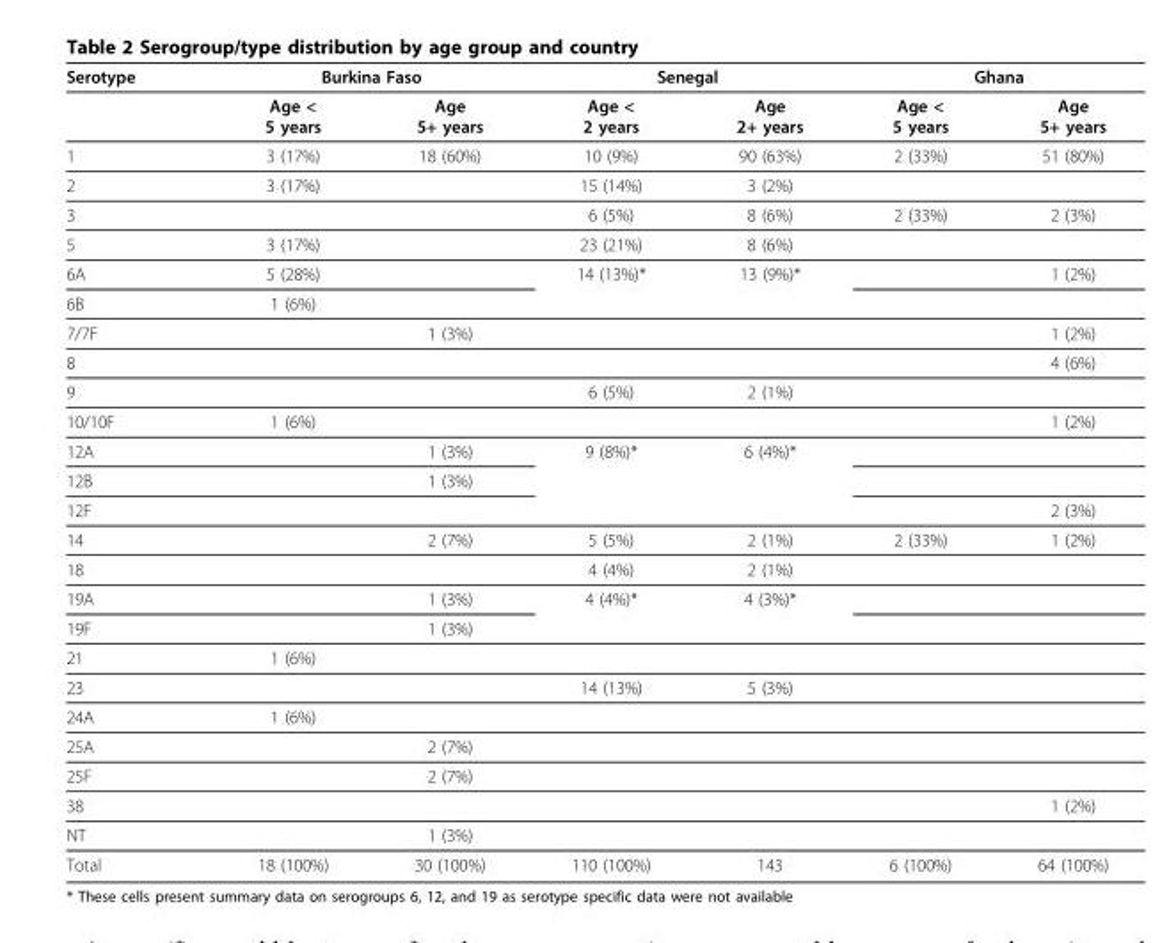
<table><thead><tr><td rowspan="2">Serotype</td><td colspan="2">Burkina Faso</td><td colspan="2">Senegal</td><td colspan="2">Ghana</td></tr><tr><td>Age &lt; 5 years</td><td>Age 5+ years</td><td>Age &lt; 2 years</td><td>Age 2+ years</td><td>Age &lt; 5 years</td><td>Age 5+ years</td></tr></thead><tbody><tr><td>1</td><td>3 (17%)</td><td>18 (60%)</td><td>10 (9%)</td><td>90 (63%)</td><td>2 (33%)</td><td>51 (80%)</td></tr><tr><td>2</td><td>3 (17%)</td><td></td><td>15 (14%)</td><td>3 (2%)</td><td></td><td></td></tr><tr><td>3</td><td></td><td></td><td>6 (5%)</td><td>8 (6%)</td><td>2 (33%)</td><td>2 (3%)</td></tr><tr><td>5</td><td>3 (17%)</td><td></td><td>23 (21%)</td><td>8 (6%)</td><td></td><td></td></tr><tr><td>6A</td><td>5 (28%)</td><td></td><td>14 (13%)*</td><td>13 (9%)*</td><td></td><td>1 (2%)</td></tr><tr><td>6B</td><td>1 (6%)</td><td></td><td></td><td></td><td></td><td></td></tr><tr><td>7/7F</td><td></td><td>1 (3%)</td><td></td><td></td><td></td><td>1 (2%)</td></tr><tr><td>8</td><td></td><td></td><td></td><td></td><td></td><td>4 (6%)</td></tr><tr><td>9</td><td></td><td></td><td>6 (5%)</td><td>2 (1%)</td><td></td><td></td></tr><tr><td>10/10F</td><td>1 (6%)</td><td></td><td></td><td></td><td></td><td>1 (2%)</td></tr><tr><td>12A</td><td></td><td>1 (3%)</td><td>9 (8%)*</td><td>6 (4%)*</td><td></td><td></td></tr><tr><td>12B</td><td></td><td>1 (3%)</td><td></td><td></td><td></td><td></td></tr><tr><td>12F</td><td></td><td></td><td></td><td></td><td></td><td>2 (3%)</td></tr><tr><td>14</td><td></td><td>2 (7%)</td><td>5 (5%)</td><td>2 (1%)</td><td>2 (33%)</td><td>1 (2%)</td></tr><tr><td>18</td><td></td><td></td><td>4 (4%)</td><td>2 (1%)</td><td></td><td></td></tr><tr><td>19A</td><td></td><td>1 (3%)</td><td>4 (4%)*</td><td>4 (3%)*</td><td></td><td></td></tr><tr><td>19F</td><td></td><td>1 (3%)</td><td></td><td></td><td></td><td></td></tr><tr><td>21</td><td>1 (6%)</td><td></td><td></td><td></td><td></td><td></td></tr><tr><td>23</td><td></td><td></td><td>14 (13%)</td><td>5 (3%)</td><td></td><td></td></tr><tr><td>24A</td><td>1 (6%)</td><td></td><td></td><td></td><td></td><td></td></tr><tr><td>25A</td><td></td><td>2 (7%)</td><td></td><td></td><td></td><td></td></tr><tr><td>25F</td><td></td><td>2 (7%)</td><td></td><td></td><td></td><td></td></tr><tr><td>38</td><td></td><td></td><td></td><td></td><td></td><td>1 (2%)</td></tr><tr><td>NT</td><td></td><td>1 (3%)</td><td></td><td></td><td></td><td></td></tr><tr><td>Total</td><td>18 (100%)</td><td>30 (100%)</td><td>110 (100%)</td><td>143</td><td>6 (100%)</td><td>64 (100%)</td></tr></tbody></table>